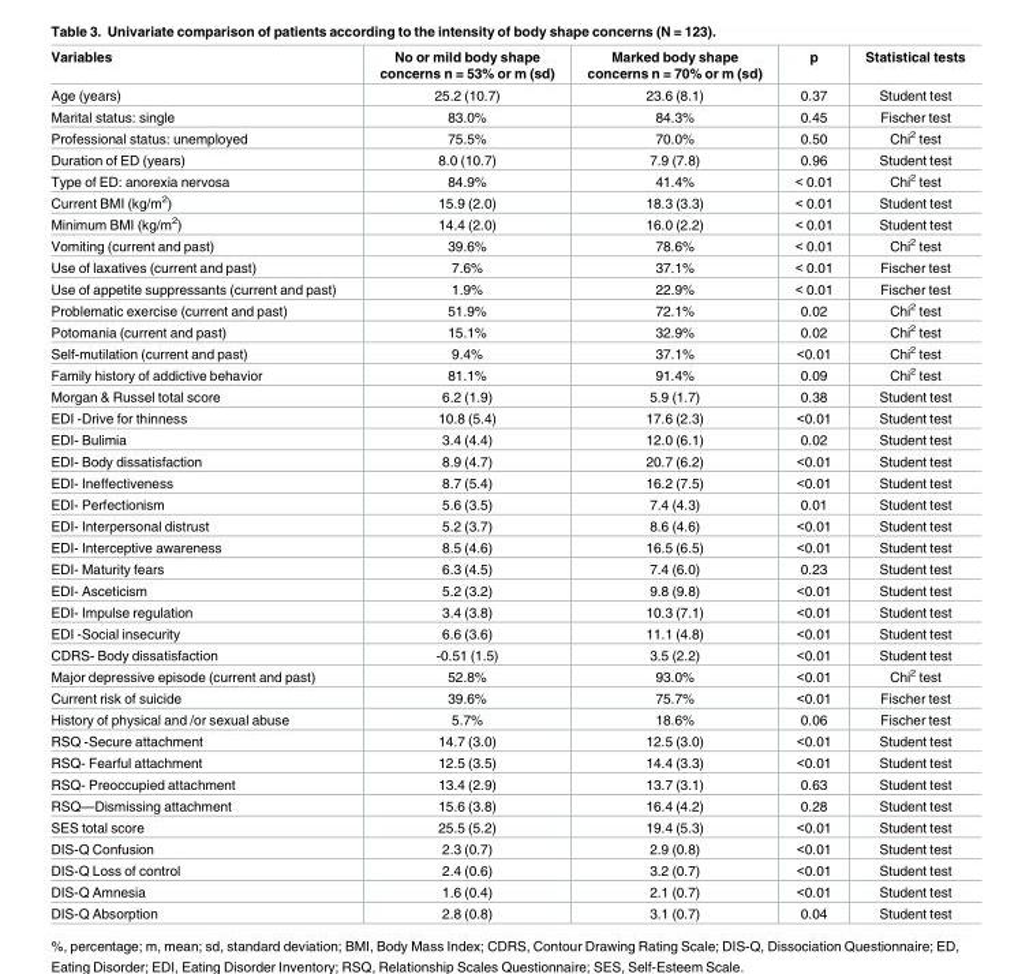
<table><thead><tr><td>Variables</td><td>No or mild body shape concerns n = 53% or m (sd)</td><td>Marked body shape concerns n = 70% or m (sd)</td><td>p</td><td>Statistical tests</td></tr></thead><tbody><tr><td>Age (years)</td><td>25.2 (10.7)</td><td>23.6 (8.1)</td><td>0.37</td><td>Student test</td></tr><tr><td>Marital status: single</td><td>83.0%</td><td>84.3%</td><td>0.45</td><td>Fischer test</td></tr><tr><td>Professional status: unemployed</td><td>75.5%</td><td>70.0%</td><td>0.50</td><td>Chi<sup>2</sup> test</td></tr><tr><td>Duration of ED (years)</td><td>8.0 (10.7)</td><td>7.9 (7.8)</td><td>0.96</td><td>Student test</td></tr><tr><td>Type of ED: anorexia nervosa</td><td>84.9%</td><td>41.4%</td><td>&lt; 0.01</td><td>Chi<sup>2</sup> test</td></tr><tr><td>Current BMI (kg/m<sup>2</sup>)</td><td>15.9 (2.0)</td><td>18.3 (3.3)</td><td>&lt; 0.01</td><td>Student test</td></tr><tr><td>Minimum BMI (kg/m<sup>2</sup>)</td><td>14.4 (2.0)</td><td>16.0 (2.2)</td><td>&lt; 0.01</td><td>Student test</td></tr><tr><td>Vomiting (current and past)</td><td>39.6%</td><td>78.6%</td><td>&lt; 0.01</td><td>Chi<sup>2</sup> test</td></tr><tr><td>Use of laxatives (current and past)</td><td>7.6%</td><td>37.1%</td><td>&lt; 0.01</td><td>Fischer test</td></tr><tr><td>Use of appetite suppressants (current and past)</td><td>1.9%</td><td>22.9%</td><td>&lt; 0.01</td><td>Fischer test</td></tr><tr><td>Problematic exercise (current and past)</td><td>51.9%</td><td>72.1%</td><td>0.02</td><td>Chi<sup>2</sup> test</td></tr><tr><td>Potomania (current and past)</td><td>15.1%</td><td>32.9%</td><td>0.02</td><td>Chi<sup>2</sup> test</td></tr><tr><td>Self-mutilation (current and past)</td><td>9.4%</td><td>37.1%</td><td>&lt;0.01</td><td>Chi<sup>2</sup> test</td></tr><tr><td>Family history of addictive behavior</td><td>81.1%</td><td>91.4%</td><td>0.09</td><td>Chi<sup>2</sup> test</td></tr><tr><td>Morgan &amp; Russel total score</td><td>6.2 (1.9)</td><td>5.9 (1.7)</td><td>0.38</td><td>Student test</td></tr><tr><td>EDI -Drive for thinness</td><td>10.8 (5.4)</td><td>17.6 (2.3)</td><td>&lt;0.01</td><td>Student test</td></tr><tr><td>EDI- Bulimia</td><td>3.4 (4.4)</td><td>12.0 (6.1)</td><td>0.02</td><td>Student test</td></tr><tr><td>EDI- Body dissatisfaction</td><td>8.9 (4.7)</td><td>20.7 (6.2)</td><td>&lt;0.01</td><td>Student test</td></tr><tr><td>EDI- Ineffectiveness</td><td>8.7 (5.4)</td><td>16.2 (7.5)</td><td>&lt;0.01</td><td>Student test</td></tr><tr><td>EDI- Perfectionism</td><td>5.6 (3.5)</td><td>7.4 (4.3)</td><td>0.01</td><td>Student test</td></tr><tr><td>EDI- Interpersonal distrust</td><td>5.2 (3.7)</td><td>8.6 (4.6)</td><td>&lt;0.01</td><td>Student test</td></tr><tr><td>EDI- Interceptive awareness</td><td>8.5 (4.6)</td><td>16.5 (6.5)</td><td>&lt;0.01</td><td>Student test</td></tr><tr><td>EDI- Maturity fears</td><td>6.3 (4.5)</td><td>7.4 (6.0)</td><td>0.23</td><td>Student test</td></tr><tr><td>EDI- Asceticism</td><td>5.2 (3.2)</td><td>9.8 (9.8)</td><td>&lt;0.01</td><td>Student test</td></tr><tr><td>EDI- Impulse regulation</td><td>3.4 (3.8)</td><td>10.3 (7.1)</td><td>&lt;0.01</td><td>Student test</td></tr><tr><td>EDI -Social insecurity</td><td>6.6 (3.6)</td><td>11.1 (4.8)</td><td>&lt;0.01</td><td>Student test</td></tr><tr><td>CDRS- Body dissatisfaction</td><td>-0.51 (1.5)</td><td>3.5 (2.2)</td><td>&lt;0.01</td><td>Student test</td></tr><tr><td>Major depressive episode (current and past)</td><td>52.8%</td><td>93.0%</td><td>&lt;0.01</td><td>Chi<sup>2</sup> test</td></tr><tr><td>Current risk of suicide</td><td>39.6%</td><td>75.7%</td><td>&lt;0.01</td><td>Fischer test</td></tr><tr><td>History of physical and /or sexual abuse</td><td>5.7%</td><td>18.6%</td><td>0.06</td><td>Fischer test</td></tr><tr><td>RSQ -Secure attachment</td><td>14.7 (3.0)</td><td>12.5 (3.0)</td><td>&lt;0.01</td><td>Student test</td></tr><tr><td>RSQ- Fearful attachment</td><td>12.5 (3.5)</td><td>14.4 (3.3)</td><td>&lt;0.01</td><td>Student test</td></tr><tr><td>RSQ- Preoccupied attachment</td><td>13.4 (2.9)</td><td>13.7 (3.1)</td><td>0.63</td><td>Student test</td></tr><tr><td>RSQ—Dismissing attachment</td><td>15.6 (3.8)</td><td>16.4 (4.2)</td><td>0.28</td><td>Student test</td></tr><tr><td>SES total score</td><td>25.5 (5.2)</td><td>19.4 (5.3)</td><td>&lt;0.01</td><td>Student test</td></tr><tr><td>DIS-Q Confusion</td><td>2.3 (0.7)</td><td>2.9 (0.8)</td><td>&lt;0.01</td><td>Student test</td></tr><tr><td>DIS-Q Loss of control</td><td>2.4 (0.6)</td><td>3.2 (0.7)</td><td>&lt;0.01</td><td>Student test</td></tr><tr><td>DIS-Q Amnesia</td><td>1.6 (0.4)</td><td>2.1 (0.7)</td><td>&lt;0.01</td><td>Student test</td></tr><tr><td>DIS-Q Absorption</td><td>2.8 (0.8)</td><td>3.1 (0.7)</td><td>0.04</td><td>Student test</td></tr></tbody></table>